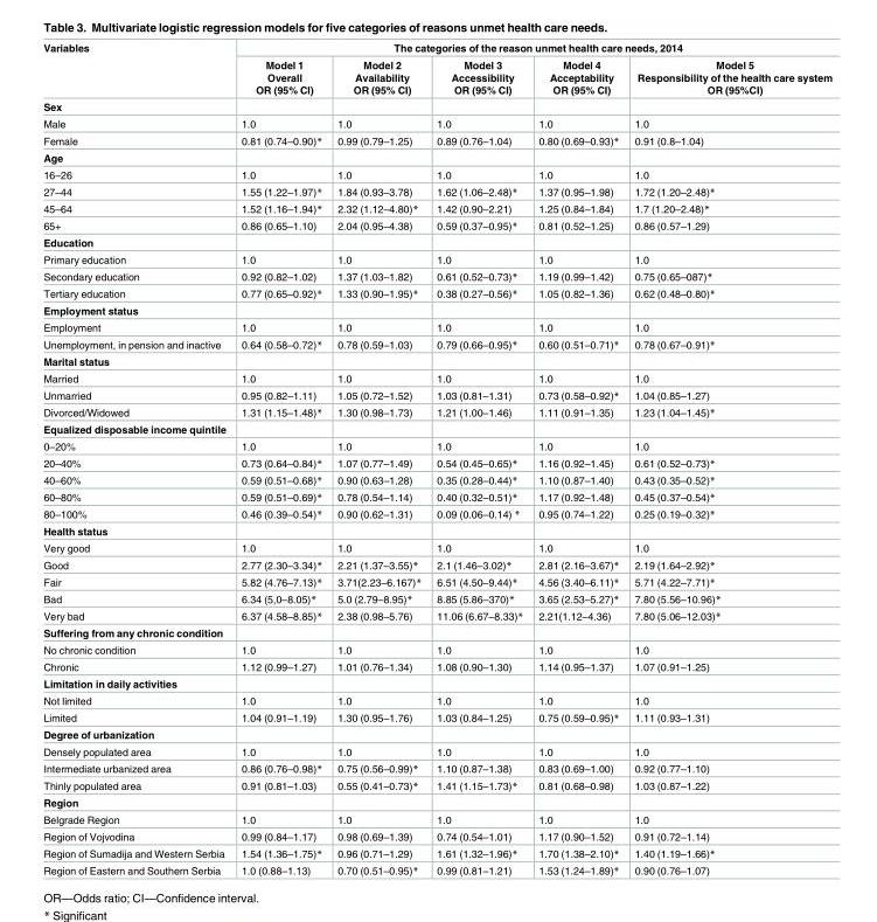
<table><thead><tr><td rowspan="2">Variables</td><td colspan="5">The categories of the reason unmet health care needs, 2014</td></tr><tr><td>Model 1 Overall OR (95% CI)</td><td>Model 2 Availability OR (95% CI)</td><td>Model 3 Accessibility OR (95% CI)</td><td>Model 4 Acceptability OR (95% CI)</td><td>Model 5 Responsibility of the health care system OR (95%CI)</td></tr></thead><tbody><tr><td colspan="6">Sex</td></tr><tr><td>Male</td><td>1.0</td><td>1.0</td><td>1.0</td><td>1.0</td><td>1.0</td></tr><tr><td>Female</td><td>0.81 (0.74–0.90)*</td><td>0.99 (0.79–1.25)</td><td>0.89 (0.76–1.04)</td><td>0.80 (0.69–0.93)*</td><td>0.91 (0.8–1.04)</td></tr><tr><td colspan="6">Age</td></tr><tr><td>16–26</td><td>1.0</td><td>1.0</td><td>1.0</td><td>1.0</td><td>1.0</td></tr><tr><td>27–44</td><td>1.55 (1.22–1.97)*</td><td>1.84 (0.93–3.78)</td><td>1.62 (1.06–2.48)*</td><td>1.37 (0.95–1.98)</td><td>1.72 (1.20–2.48)*</td></tr><tr><td>45–64</td><td>1.52 (1.16–1.94)*</td><td>2.32 (1.12–4.80)*</td><td>1.42 (0.90–2.21)</td><td>1.25 (0.84–1.84)</td><td>1.7 (1.20–2.48)*</td></tr><tr><td>65+</td><td>0.86 (0.65–1.10)</td><td>2.04 (0.95–4.38)</td><td>0.59 (0.37–0.95)*</td><td>0.81 (0.52–1.25)</td><td>0.86 (0.57–1.29)</td></tr><tr><td colspan="6">Education</td></tr><tr><td>Primary education</td><td>1.0</td><td>1.0</td><td>1.0</td><td>1.0</td><td>1.0</td></tr><tr><td>Secondary education</td><td>0.92 (0.82–1.02)</td><td>1.37 (1.03–1.82)</td><td>0.61 (0.52–0.73)*</td><td>1.19 (0.99–1.42)</td><td>0.75 (0.65–087)*</td></tr><tr><td>Tertiary education</td><td>0.77 (0.65–0.92)*</td><td>1.33 (0.90–1.95)*</td><td>0.38 (0.27–0.56)*</td><td>1.05 (0.82–1.36)</td><td>0.62 (0.48–0.80)*</td></tr><tr><td colspan="6">Employment status</td></tr><tr><td>Employment</td><td>1.0</td><td>1.0</td><td>1.0</td><td>1.0</td><td>1.0</td></tr><tr><td>Unemployment, in pension and inactive</td><td>0.64 (0.58–0.72)*</td><td>0.78 (0.59–1.03)</td><td>0.79 (0.66–0.95)*</td><td>0.60 (0.51–0.71)*</td><td>0.78 (0.67–0.91)*</td></tr><tr><td colspan="6">Marital status</td></tr><tr><td>Married</td><td>1.0</td><td>1.0</td><td>1.0</td><td>1.0</td><td>1.0</td></tr><tr><td>Unmarried</td><td>0.95 (0.82–1.11)</td><td>1.05 (0.72–1.52)</td><td>1.03 (0.81–1.31)</td><td>0.73 (0.58–0.92)*</td><td>1.04 (0.85–1.27)</td></tr><tr><td>Divorced/Widowed</td><td>1.31 (1.15–1.48)*</td><td>1.30 (0.98–1.73)</td><td>1.21 (1.00–1.46)</td><td>1.11 (0.91–1.35)</td><td>1.23 (1.04–1.45)*</td></tr><tr><td colspan="6">Equalized disposable income quintile</td></tr><tr><td>0–20%</td><td>1.0</td><td>1.0</td><td>1.0</td><td>1.0</td><td>1.0</td></tr><tr><td>20–40%</td><td>0.73 (0.64–0.84)*</td><td>1.07 (0.77–1.49)</td><td>0.54 (0.45–0.65)*</td><td>1.16 (0.92–1.45)</td><td>0.61 (0.52–0.73)*</td></tr><tr><td>40–60%</td><td>0.59 (0.51–0.68)*</td><td>0.90 (0.63–1.28)</td><td>0.35 (0.28–0.44)*</td><td>1.10 (0.87–1.40)</td><td>0.43 (0.35–0.52)*</td></tr><tr><td>60–80%</td><td>0.59 (0.51–0.69)*</td><td>0.78 (0.54–1.14)</td><td>0.40 (0.32–0.51)*</td><td>1.17 (0.92–1.48)</td><td>0.45 (0.37–0.54)*</td></tr><tr><td>80–100%</td><td>0.46 (0.39–0.54)*</td><td>0.90 (0.62–1.31)</td><td>0.09 (0.06–0.14) *</td><td>0.95 (0.74–1.22)</td><td>0.25 (0.19–0.32)*</td></tr><tr><td colspan="6">Health status</td></tr><tr><td>Very good</td><td>1.0</td><td>1.0</td><td>1.0</td><td>1.0</td><td>1.0</td></tr><tr><td>Good</td><td>2.77 (2.30–3.34)*</td><td>2.21 (1.37–3.55)*</td><td>2.1 (1.46–3.02)*</td><td>2.81 (2.16–3.67)*</td><td>2.19 (1.64–2.92)*</td></tr><tr><td>Fair</td><td>5.82 (4.76–7.13)*</td><td>3.71(2.23–6.167)*</td><td>6.51 (4.50–9.44)*</td><td>4.56 (3.40–6.11)*</td><td>5.71 (4.22–7.71)*</td></tr><tr><td>Bad</td><td>6.34 (5,0–8.05)*</td><td>5.0 (2.79–8.95)*</td><td>8.85 (5.86–370)*</td><td>3.65 (2.53–5.27)*</td><td>7.80 (5.56–10.96)*</td></tr><tr><td>Very bad</td><td>6.37 (4.58–8.85)*</td><td>2.38 (0.98–5.76)</td><td>11.06 (6.67–8.33)*</td><td>2.21(1.12–4.36)</td><td>7.80 (5.06–12.03)*</td></tr><tr><td colspan="6">Suffering from any chronic condition</td></tr><tr><td>No chronic condition</td><td>1.0</td><td>1.0</td><td>1.0</td><td>1.0</td><td>1.0</td></tr><tr><td>Chronic</td><td>1.12 (0.99–1.27)</td><td>1.01 (0.76–1.34)</td><td>1.08 (0.90–1.30)</td><td>1.14 (0.95–1.37)</td><td>1.07 (0.91–1.25)</td></tr><tr><td colspan="6">Limitation in daily activities</td></tr><tr><td>Not limited</td><td>1.0</td><td>1.0</td><td>1.0</td><td>1.0</td><td>1.0</td></tr><tr><td>Limited</td><td>1.04 (0.91–1.19)</td><td>1.30 (0.95–1.76)</td><td>1.03 (0.84–1.25)</td><td>0.75 (0.59–0.95)*</td><td>1.11 (0.93–1.31)</td></tr><tr><td colspan="6">Degree of urbanization</td></tr><tr><td>Densely populated area</td><td>1.0</td><td>1.0</td><td>1.0</td><td>1.0</td><td>1.0</td></tr><tr><td>Intermediate urbanized area</td><td>0.86 (0.76–0.98)*</td><td>0.75 (0.56–0.99)*</td><td>1.10 (0.87–1.38)</td><td>0.83 (0.69–1.00)</td><td>0.92 (0.77–1.10)</td></tr><tr><td>Thinly populated area</td><td>0.91 (0.81–1.03)</td><td>0.55 (0.41–0.73)*</td><td>1.41 (1.15–1.73)*</td><td>0.81 (0.68–0.98)</td><td>1.03 (0.87–1.22)</td></tr><tr><td colspan="6">Region</td></tr><tr><td>Belgrade Region</td><td>1.0</td><td>1.0</td><td>1.0</td><td>1.0</td><td>1.0</td></tr><tr><td>Region of Vojvodina</td><td>0.99 (0.84–1.17)</td><td>0.98 (0.69–1.39)</td><td>0.74 (0.54–1.01)</td><td>1.17 (0.90–1.52)</td><td>0.91 (0.72–1.14)</td></tr><tr><td>Region of Sumadija and Western Serbia</td><td>1.54 (1.36–1.75)*</td><td>0.96 (0.71–1.29)</td><td>1.61 (1.32–1.96)*</td><td>1.70 (1.38–2.10)*</td><td>1.40 (1.19–1.66)*</td></tr><tr><td>Region of Eastern and Southern Serbia</td><td>1.0 (0.88–1.13)</td><td>0.70 (0.51–0.95)*</td><td>0.99 (0.81–1.21)</td><td>1.53 (1.24–1.89)*</td><td>0.90 (0.76–1.07)</td></tr></tbody></table>